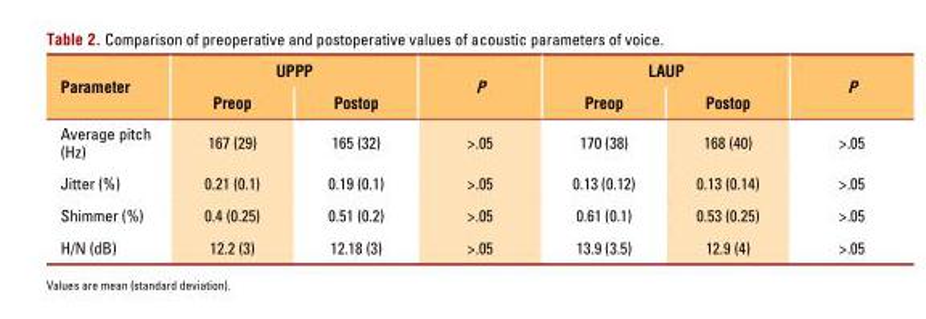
<table><thead><tr><td rowspan="2">Parameter</td><td colspan="2">UPPP</td><td rowspan="2">P</td><td colspan="2">LAUP</td><td rowspan="2">P</td></tr><tr><td>Preop</td><td>Postop</td><td>Preop</td><td>Postop</td></tr></thead><tbody><tr><td>Average pitch (Hz)</td><td>167 (29)</td><td>165 (32)</td><td>&gt;.05</td><td>170 (38)</td><td>168 (40)</td><td>&gt;.05</td></tr><tr><td>Jitter (%)</td><td>0.21 (0.1)</td><td>0.19 (0.1)</td><td>&gt;.05</td><td>0.13 (0.12)</td><td>0.13 (0.14)</td><td>&gt;.05</td></tr><tr><td>Shimmer (%)</td><td>0.4 (0.25)</td><td>0.51 (0.2)</td><td>&gt;.05</td><td>0.61 (0.1)</td><td>0.53 (0.25)</td><td>&gt;.05</td></tr><tr><td>H/N (dB)</td><td>12.2 (3)</td><td>12.18 (3)</td><td>&gt;.05</td><td>13.9 (3.5)</td><td>12.9 (4)</td><td>&gt;.05</td></tr></tbody></table>